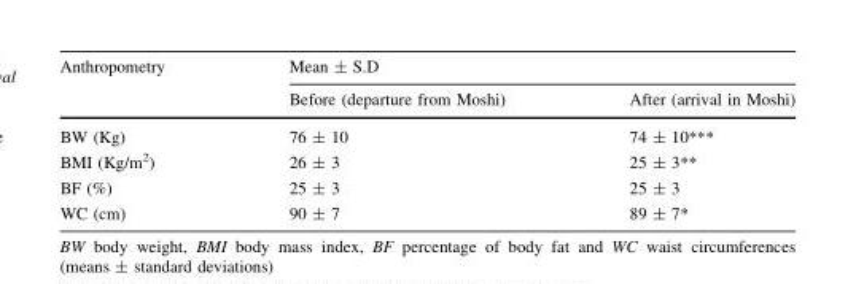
<table><thead><tr><td rowspan="2">Anthropometry</td><td colspan="2">Mean ± S.D</td></tr><tr><td>Before (departure from Moshi)</td><td>After (arrival in Moshi)</td></tr></thead><tbody><tr><td>BW (Kg)</td><td>76 ± 10</td><td>74 ± 10***</td></tr><tr><td>BMI (Kg/m<sup>2</sup>)</td><td>26 ± 3</td><td>25 ± 3**</td></tr><tr><td>BF (%)</td><td>25 ± 3</td><td>25 ± 3</td></tr><tr><td>WC (cm)</td><td>90 ± 7</td><td>89 ± 7*</td></tr></tbody></table>